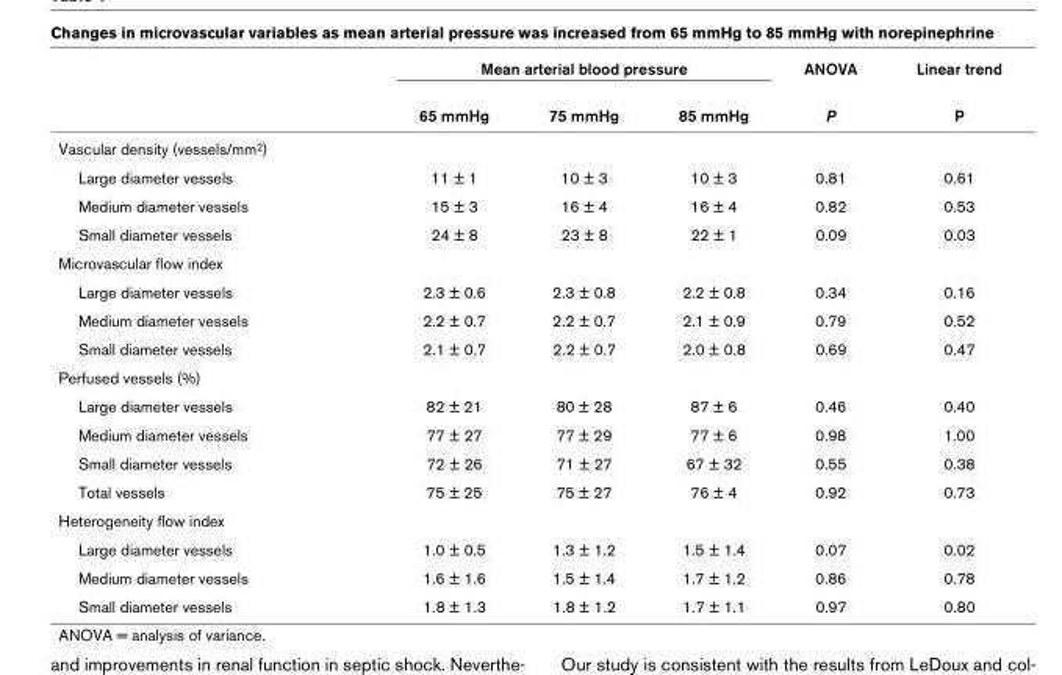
<table><thead><tr><td rowspan="2"></td><td colspan="3">Mean arterial blood pressure</td><td rowspan="2">ANOVA P</td><td rowspan="2">Linear trend P</td></tr><tr><td>65 mmHg</td><td>75 mmHg</td><td>85 mmHg</td></tr></thead><tbody><tr><td colspan="6">Vascular density (vessels/mm<sup>2</sup>)</td></tr><tr><td>Large diameter vessels</td><td>11 ± 1</td><td>10 ± 3</td><td>10 ± 3</td><td>0.81</td><td>0.61</td></tr><tr><td>Medium diameter vessels</td><td>15 ± 3</td><td>16 ± 4</td><td>16 ± 4</td><td>0.82</td><td>0.53</td></tr><tr><td>Small diameter vessels</td><td>24 ± 8</td><td>23 ± 8</td><td>22 ± 1</td><td>0.09</td><td>0.03</td></tr><tr><td colspan="6">Microvascular flow index</td></tr><tr><td>Large diameter vessels</td><td>2.3 ± 0.6</td><td>2.3 ± 0.8</td><td>2.2 ± 0.8</td><td>0.34</td><td>0.16</td></tr><tr><td>Medium diameter vessels</td><td>2.2 ± 0.7</td><td>2.2 ± 0.7</td><td>2.1 ± 0.9</td><td>0.79</td><td>0.52</td></tr><tr><td>Small diameter vessels</td><td>2.1 ± 0.7</td><td>2.2 ± 0.7</td><td>2.0 ± 0.8</td><td>0.69</td><td>0.47</td></tr><tr><td colspan="6">Perfused vessels (%)</td></tr><tr><td>Large diameter vessels</td><td>82 ± 21</td><td>80 ± 28</td><td>87 ± 6</td><td>0.46</td><td>0.40</td></tr><tr><td>Medium diameter vessels</td><td>77 ± 27</td><td>77 ± 29</td><td>77 ± 6</td><td>0.98</td><td>1.00</td></tr><tr><td>Small diameter vessels</td><td>72 ± 26</td><td>71 ± 27</td><td>67 ± 32</td><td>0.55</td><td>0.38</td></tr><tr><td>Total vessels</td><td>75 ± 25</td><td>75 ± 27</td><td>76 ± 4</td><td>0.92</td><td>0.73</td></tr><tr><td colspan="6">Heterogeneity flow index</td></tr><tr><td>Large diameter vessels</td><td>1.0 ± 0.5</td><td>1.3 ± 1.2</td><td>1.5 ± 1.4</td><td>0.07</td><td>0.02</td></tr><tr><td>Medium diameter vessels</td><td>1.6 ± 1.6</td><td>1.5 ± 1.4</td><td>1.7 ± 1.2</td><td>0.86</td><td>0.78</td></tr><tr><td>Small diameter vessels</td><td>1.8 ± 1.3</td><td>1.8 ± 1.2</td><td>1.7 ± 1.1</td><td>0.97</td><td>0.80</td></tr></tbody></table>